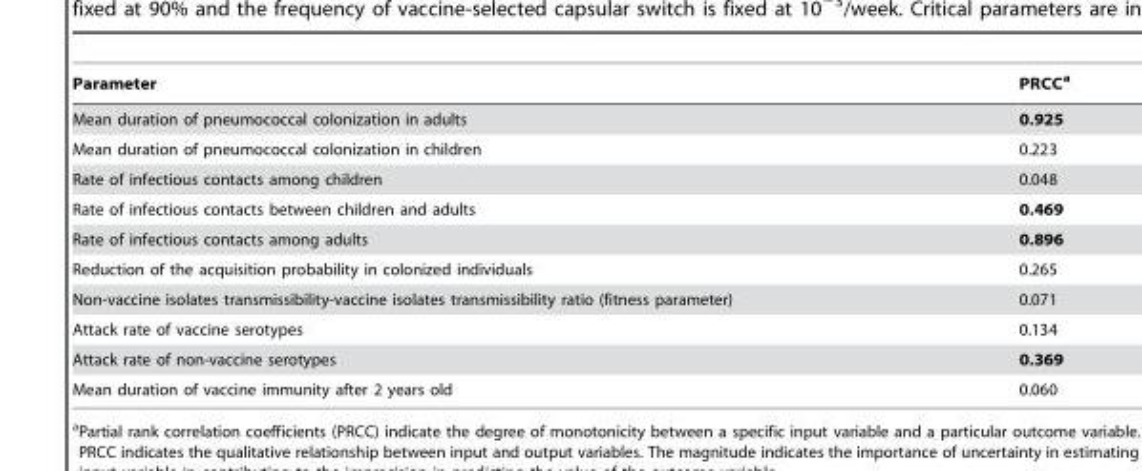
<table><thead><tr><td>Parameter</td><td>PRCC<sup>a</sup></td></tr></thead><tbody><tr><td>Mean duration of pneumococcal colonization in adults</td><td>0.925</td></tr><tr><td>Mean duration of pneumococcal colonization in children</td><td>0.223</td></tr><tr><td>Rate of infectious contacts among children</td><td>0.048</td></tr><tr><td>Rate of infectious contacts between children and adults</td><td>0.469</td></tr><tr><td>Rate of infectious contacts among adults</td><td>0.896</td></tr><tr><td>Reduction of the acquisition probability in colonized individuals</td><td>0.265</td></tr><tr><td>Non-vaccine isolates transmissibility-vaccine isolates transmissibility ratio (fitness parameter)</td><td>0.071</td></tr><tr><td>Attack rate of vaccine serotypes</td><td>0.134</td></tr><tr><td>Attack rate of non-vaccine serotypes</td><td>0.369</td></tr><tr><td>Mean duration of vaccine immunity after 2 years old</td><td>0.060</td></tr></tbody></table>